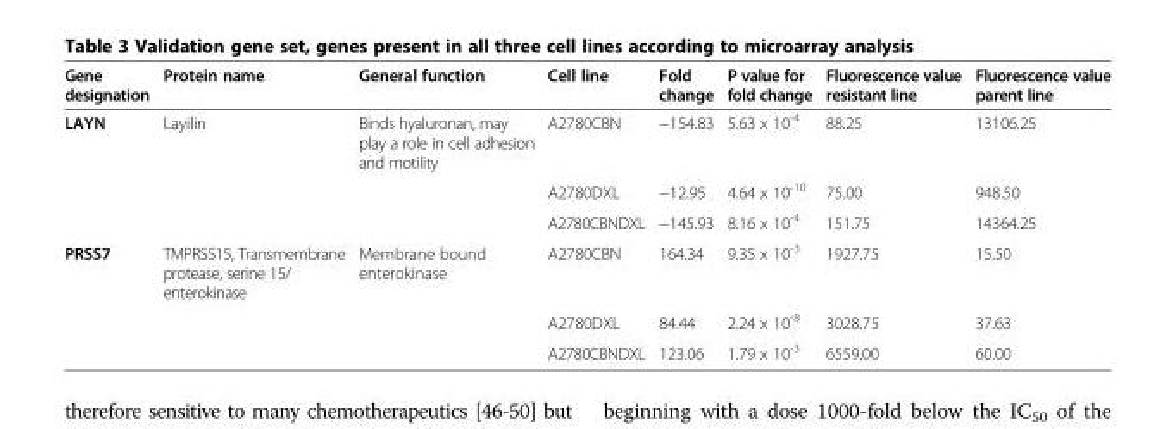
<table><thead><tr><td>Gene designation</td><td>Protein name</td><td>General function</td><td>Cell line</td><td>Fold change</td><td>P value for fold change</td><td>Fluorescence value resistant line</td><td>Fluorescence value parent line</td></tr></thead><tbody><tr><td rowspan="3">LAYN</td><td>Layilin</td><td>Binds hyaluronan, may play a role in cell adhesion and motility</td><td>A2780CBN</td><td>−154.83</td><td>5.63 x 10<sup>-4</sup></td><td>88.25</td><td>13106.25</td></tr><tr><td></td><td></td><td>A2780DXL</td><td>−12.95</td><td>4.64 x 10<sup>-10</sup></td><td>75.00</td><td>948.50</td></tr><tr><td></td><td></td><td>A2780CBNDXL</td><td>−145.93</td><td>8.16 x 10<sup>-4</sup></td><td>151.75</td><td>14364.25</td></tr><tr><td rowspan="3">PRSS7</td><td>TMPRSS15, Transmembrane protease, serine 15/ enterokinase</td><td>Membrane bound enterokinase</td><td>A2780CBN</td><td>164.34</td><td>9.35 x 10<sup>-3</sup></td><td>1927.75</td><td>15.50</td></tr><tr><td></td><td></td><td>A2780DXL</td><td>84.44</td><td>2.24 x 10<sup>-8</sup></td><td>3028.75</td><td>37.63</td></tr><tr><td></td><td></td><td>A2780CBNDXL</td><td>123.06</td><td>1.79 x 10<sup>-3</sup></td><td>6559.00</td><td>60.00</td></tr></tbody></table>